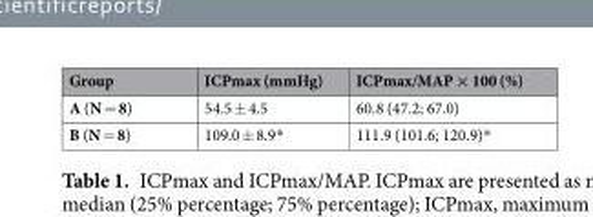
<table><thead><tr><td>Group</td><td>ICPmax (mmHg)</td><td>ICPmax/MAP × 100 (%)</td></tr></thead><tbody><tr><td>A (N = 8)</td><td>54.5 ± 4.5</td><td>60.8 (47.2; 67.0)</td></tr><tr><td>B (N = 8)</td><td>109.0 ± 8.9*</td><td>111.9 (101.6; 120.9)*</td></tr></tbody></table>